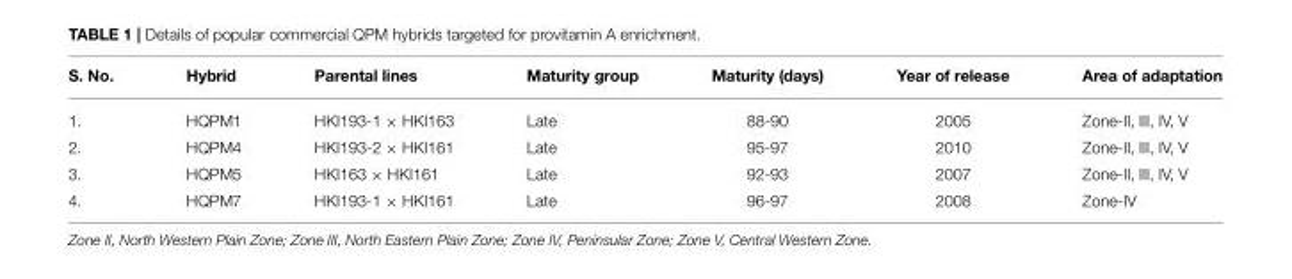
<table><thead><tr><td>S. No.</td><td>Hybrid</td><td>Parental lines</td><td>Maturity group</td><td>Maturity (days)</td><td>Year of release</td><td>Area of adaptation</td></tr></thead><tbody><tr><td>1.</td><td>HQPM1</td><td>HKI193-1 × HKI163</td><td>Late</td><td>88-90</td><td>2005</td><td>Zone-II, III, IV, V</td></tr><tr><td>2.</td><td>HQPM4</td><td>HKI193-2 × HKI161</td><td>Late</td><td>95-97</td><td>2010</td><td>Zone-II, III, IV, V</td></tr><tr><td>3.</td><td>HQPM5</td><td>HKI163 × HKI161</td><td>Late</td><td>92-93</td><td>2007</td><td>Zone-II, III, IV, V</td></tr><tr><td>4.</td><td>HQPM7</td><td>HKI193-1 × HKI161</td><td>Late</td><td>96-97</td><td>2008</td><td>Zone-IV</td></tr></tbody></table>